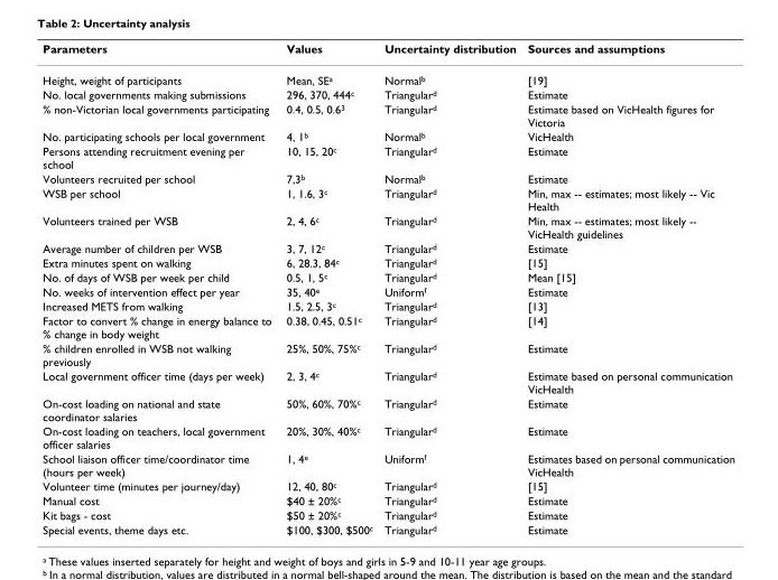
<table><thead><tr><td>Parameters</td><td>Values</td><td>Uncertainty distribution</td><td>Sources and assumptions</td></tr></thead><tbody><tr><td>Height, weight of participants</td><td>Mean, SE<sup>a</sup></td><td>Normal<sup>b</sup></td><td>[19]</td></tr><tr><td>No. local governments making submissions</td><td>296, 370, 444<sup>c</sup></td><td>Triangular<sup>d</sup></td><td>Estimate</td></tr><tr><td>% non-Victorian local governments participating</td><td>0.4, 0.5, 0.6<sup>3</sup></td><td>Triangular<sup>d</sup></td><td>Estimate based on VicHealth figures for Victoria</td></tr><tr><td>No. participating schools per local government</td><td>4, 1<sup>b</sup></td><td>Normal<sup>b</sup></td><td>VicHealth</td></tr><tr><td>Persons attending recruitment evening per school</td><td>10, 15, 20<sup>c</sup></td><td>Triangular<sup>d</sup></td><td>Estimate</td></tr><tr><td>Volunteers recruited per school</td><td>7,3<sup>b</sup></td><td>Normal<sup>b</sup></td><td>Estimate</td></tr><tr><td>WSB per school</td><td>1, 1.6, 3<sup>c</sup></td><td>Triangular<sup>d</sup></td><td>Min, max -- estimates; most likely -- Vic Health</td></tr><tr><td>Volunteers trained per WSB</td><td>2, 4, 6<sup>c</sup></td><td>Triangular<sup>d</sup></td><td>Min, max -- estimates; most likely -- VicHealth guidelines</td></tr><tr><td>Average number of children per WSB</td><td>3, 7, 12<sup>c</sup></td><td>Triangular<sup>d</sup></td><td>Estimate</td></tr><tr><td>Extra minutes spent on walking</td><td>6, 28.3, 84<sup>c</sup></td><td>Triangular<sup>d</sup></td><td>[15]</td></tr><tr><td>No. of days of WSB per week per child</td><td>0.5, 1, 5<sup>c</sup></td><td>Triangular<sup>d</sup></td><td>Mean [15]</td></tr><tr><td>No. weeks of intervention effect per year</td><td>35, 40<sup>e</sup></td><td>Uniform<sup>f</sup></td><td>Estimate</td></tr><tr><td>Increased METS from walking</td><td>1.5, 2.5, 3<sup>c</sup></td><td>Triangular<sup>d</sup></td><td>[13]</td></tr><tr><td>Factor to convert % change in energy balance to % change in body weight</td><td>0.38, 0.45, 0.51<sup>c</sup></td><td>Triangular<sup>d</sup></td><td>[14]</td></tr><tr><td>% children enrolled in WSB not walking previously</td><td>25%, 50%, 75%<sup>c</sup></td><td>Triangular<sup>d</sup></td><td>Estimate</td></tr><tr><td>Local government officer time (days per week)</td><td>2, 3, 4<sup>c</sup></td><td>Triangular<sup>d</sup></td><td>Estimate based on personal communication VicHealth</td></tr><tr><td>On-cost loading on national and state coordinator salaries</td><td>50%, 60%, 70%<sup>c</sup></td><td>Triangular<sup>d</sup></td><td>Estimate</td></tr><tr><td>On-cost loading on teachers, local government officer salaries</td><td>20%, 30%, 40%<sup>c</sup></td><td>Triangular<sup>d</sup></td><td>Estimate</td></tr><tr><td>School liaison officer time/coordinator time (hours per week)</td><td>1, 4<sup>e</sup></td><td>Uniform<sup>f</sup></td><td>Estimates based on personal communication VicHealth</td></tr><tr><td>Volunteer time (minutes per journey/day)</td><td>12, 40, 80<sup>c</sup></td><td>Triangular<sup>d</sup></td><td>[15]</td></tr><tr><td>Manual cost</td><td>$40 ± 20%<sup>c</sup></td><td>Triangular<sup>d</sup></td><td>Estimate</td></tr><tr><td>Kit bags - cost</td><td>$50 ± 20%<sup>c</sup></td><td>Triangular<sup>d</sup></td><td>Estimate</td></tr><tr><td>Special events, theme days etc.</td><td>$100, $300, $500<sup>c</sup></td><td>Triangular<sup>d</sup></td><td>Estimate</td></tr></tbody></table>